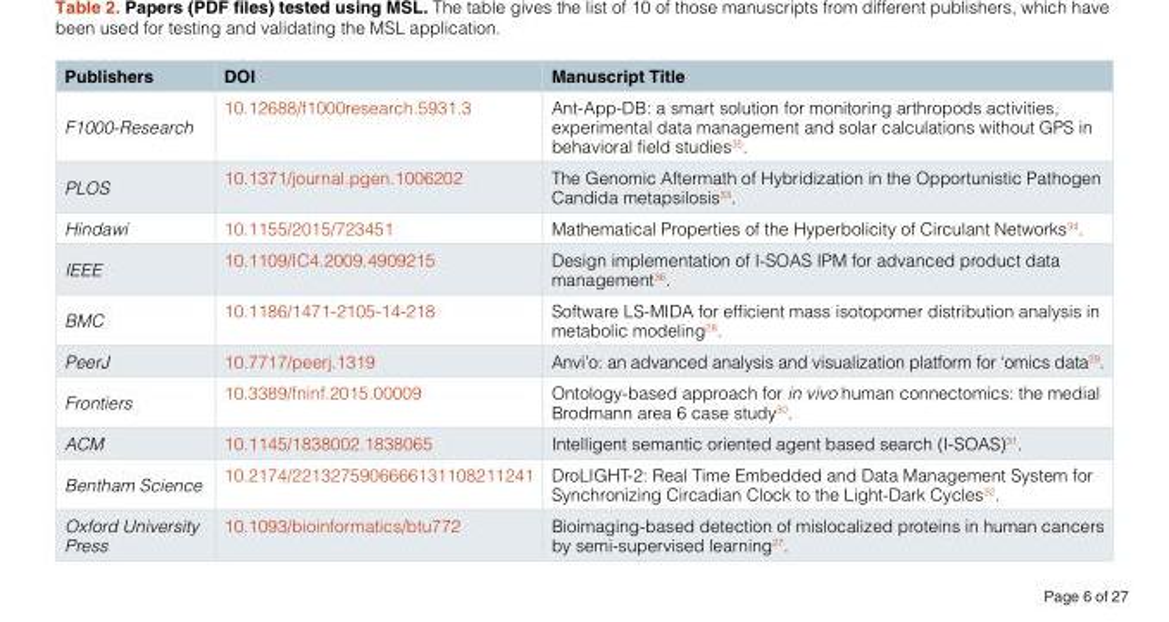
<table><thead><tr><td>Publishers</td><td>DOI</td><td>Manuscript Title</td></tr></thead><tbody><tr><td>F1000-Research</td><td>10.12688/f1000research.5931.3</td><td>Ant-App-DB: a smart solution for monitoring arthropods activities, experimental data management and solar calculations without GPS in behavioral field studies<sup>35</sup>.</td></tr><tr><td>PLOS</td><td>10.1371/journal.pgen.1006202</td><td>The Genomic Aftermath of Hybridization in the Opportunistic Pathogen Candida metapsilosis<sup>33</sup>.</td></tr><tr><td>Hindawi</td><td>10.1155/2015/723451</td><td>Mathematical Properties of the Hyperbolicity of Circulant Networks<sup>34</sup>.</td></tr><tr><td>IEEE</td><td>10.1109/IC4.2009.4909215</td><td>Design implementation of I-SOAS IPM for advanced product data management<sup>36</sup>.</td></tr><tr><td>BMC</td><td>10.1186/1471-2105-14-218</td><td>Software LS-MIDA for efficient mass isotopomer distribution analysis in metabolic modeling<sup>28</sup>.</td></tr><tr><td>PeerJ</td><td>10.7717/peerj.1319</td><td>Anvi’o: an advanced analysis and visualization platform for ‘omics data<sup>29</sup>.</td></tr><tr><td>Frontiers</td><td>10.3389/fninf.2015.00009</td><td>Ontology-based approach for in vivo human connectomics: the medial Brodmann area 6 case study<sup>30</sup>.</td></tr><tr><td>ACM</td><td>10.1145/1838002.1838065</td><td>Intelligent semantic oriented agent based search (I-SOAS)<sup>31</sup>.</td></tr><tr><td>Bentham Science</td><td>10.2174/2213275906666131108211241</td><td>DroLIGHT-2: Real Time Embedded and Data Management System for Synchronizing Circadian Clock to the Light-Dark Cycles<sup>32</sup>.</td></tr><tr><td>Oxford University Press</td><td>10.1093/bioinformatics/btu772</td><td>Bioimaging-based detection of mislocalized proteins in human cancers by semi-supervised learning<sup>27</sup>.</td></tr></tbody></table>